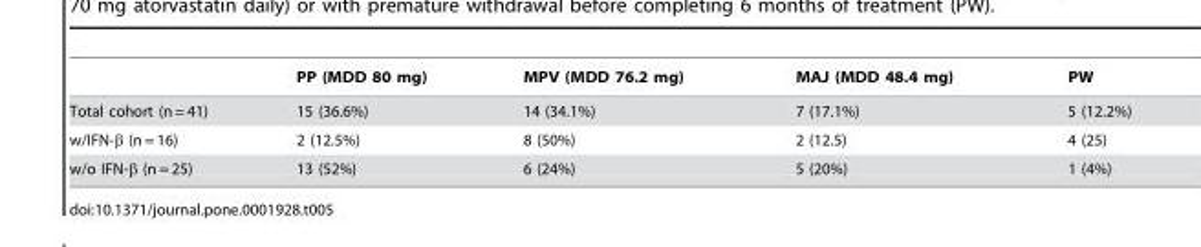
<table><thead><tr><td></td><td>PP (MDD 80 mg)</td><td>MPV (MDD 76.2 mg)</td><td>MAJ (MDD 48.4 mg)</td><td>PW</td></tr></thead><tbody><tr><td>Total cohort (n = 41)</td><td>15 (36.6%)</td><td>14 (34.1%)</td><td>7 (17.1%)</td><td>5 (12.2%)</td></tr><tr><td>w/IFN-β (n = 16)</td><td>2 (12.5%)</td><td>8 (50%)</td><td>2 (12.5)</td><td>4 (25)</td></tr><tr><td>w/o IFN-β (n = 25)</td><td>13 (52%)</td><td>6 (24%)</td><td>5 (20%)</td><td>1 (4%)</td></tr></tbody></table>